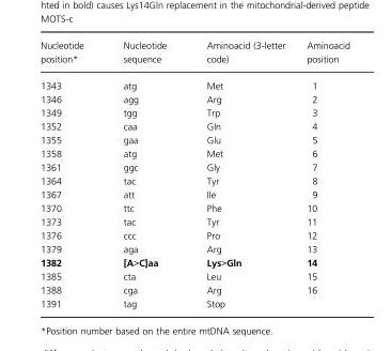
<table><thead><tr><td>Nucleotide position*</td><td>Nucleotide sequence</td><td>Aminoacid (3-letter code)</td><td>Aminoacid position</td></tr></thead><tbody><tr><td>1343</td><td>atg</td><td>Met</td><td>1</td></tr><tr><td>1346</td><td>agg</td><td>Arg</td><td>2</td></tr><tr><td>1349</td><td>tgg</td><td>Trp</td><td>3</td></tr><tr><td>1352</td><td>caa</td><td>Gln</td><td>4</td></tr><tr><td>1355</td><td>gaa</td><td>Glu</td><td>5</td></tr><tr><td>1358</td><td>atg</td><td>Met</td><td>6</td></tr><tr><td>1361</td><td>ggc</td><td>Gly</td><td>7</td></tr><tr><td>1364</td><td>tac</td><td>Tyr</td><td>8</td></tr><tr><td>1367</td><td>att</td><td>Ile</td><td>9</td></tr><tr><td>1370</td><td>ttc</td><td>Phe</td><td>10</td></tr><tr><td>1373</td><td>tac</td><td>Tyr</td><td>11</td></tr><tr><td>1376</td><td>ccc</td><td>Pro</td><td>12</td></tr><tr><td>1379</td><td>aga</td><td>Arg</td><td>13</td></tr><tr><td>1382</td><td>[A&gt;C]aa</td><td>Lys&gt;Gln</td><td>14</td></tr><tr><td>1385</td><td>cta</td><td>Leu</td><td>15</td></tr><tr><td>1388</td><td>cga</td><td>Arg</td><td>16</td></tr><tr><td>1391</td><td>tag</td><td>Stop</td><td></td></tr></tbody></table>